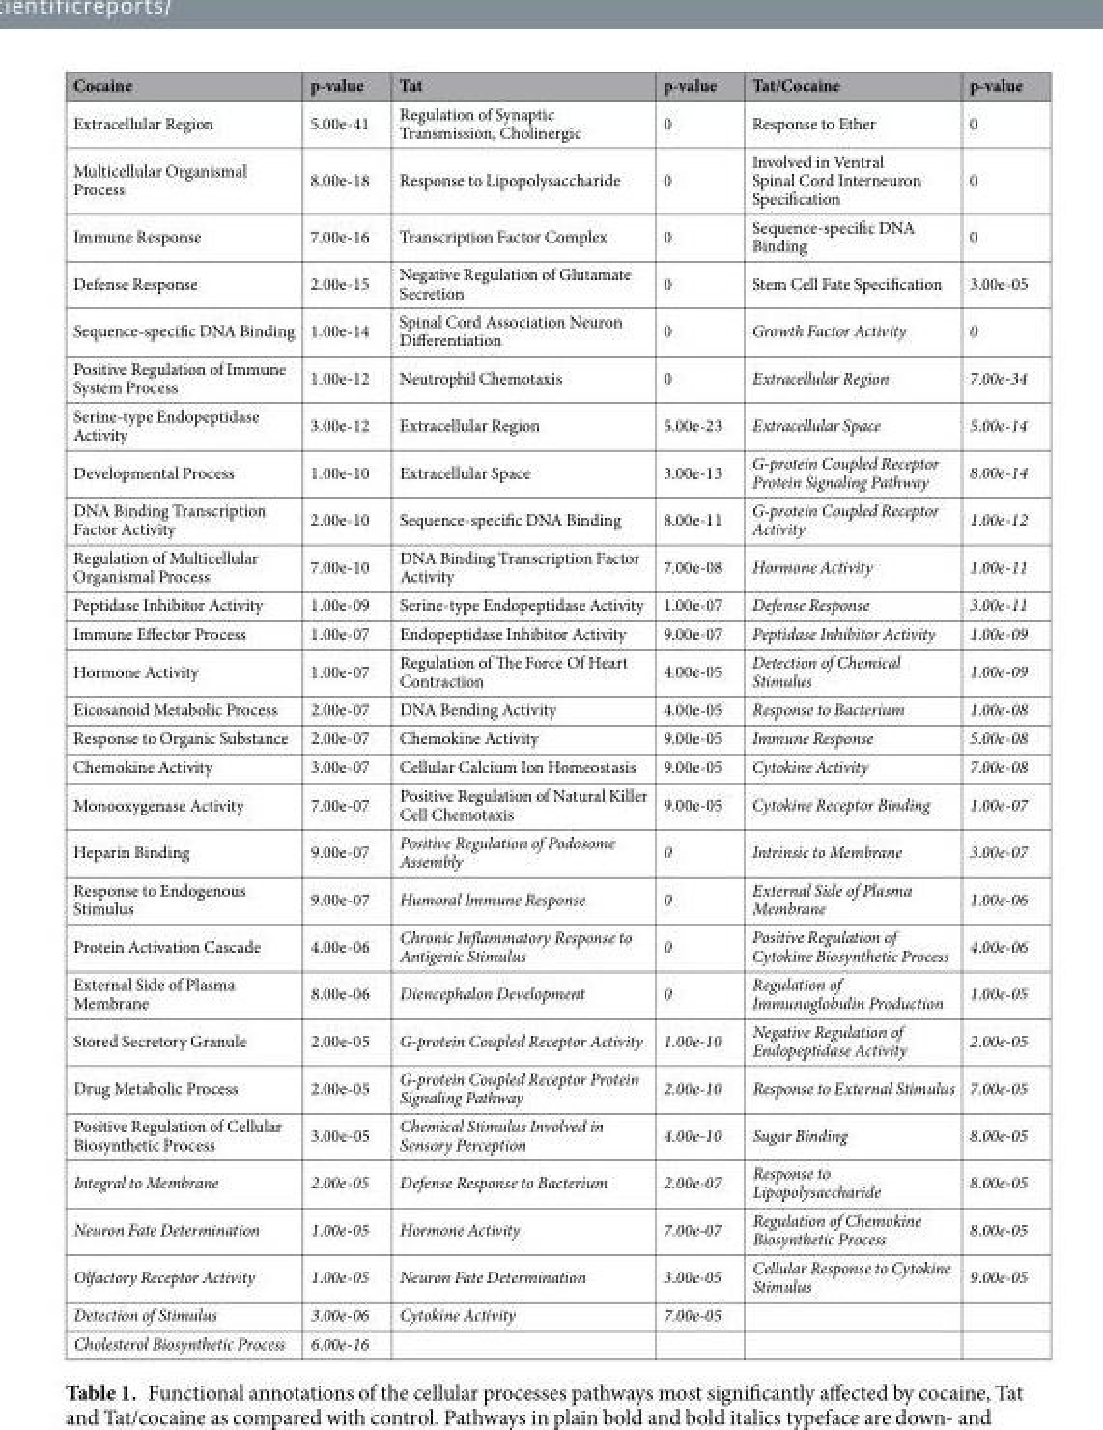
<table><thead><tr><td>Cocaine</td><td>p-value</td><td>Tat</td><td>p-value</td><td>Tat/Cocaine</td><td>p-value</td></tr></thead><tbody><tr><td>Extracellular Region</td><td>5.00e-41</td><td>Regulation of Synaptic Transmission, Cholinergic</td><td>0</td><td>Response to Ether</td><td>0</td></tr><tr><td>Multicellular Organismal Process</td><td>8.00e-18</td><td>Response to Lipopolysaccharide</td><td>0</td><td>Involved in Ventral Spinal Cord Interneuron Specification</td><td>0</td></tr><tr><td>Immune Response</td><td>7.00e-16</td><td>Transcription Factor Complex</td><td>0</td><td>Sequence-specific DNA Binding</td><td>0</td></tr><tr><td>Defense Response</td><td>2.00e-15</td><td>Negative Regulation of Glutamate Secretion</td><td>0</td><td>Stem Cell Fate Specification</td><td>3.00e-05</td></tr><tr><td>Sequence-specific DNA Binding</td><td>1.00e-14</td><td>Spinal Cord Association Neuron Differentiation</td><td>0</td><td>Growth Factor Activity</td><td>0</td></tr><tr><td>Positive Regulation of Immune System Process</td><td>1.00e-12</td><td>Neutrophil Chemotaxis</td><td>0</td><td>Extracellular Region</td><td>7.00e-34</td></tr><tr><td>Serine-type Endopeptidase Activity</td><td>3.00e-12</td><td>Extracellular Region</td><td>5.00e-23</td><td>Extracellular Space</td><td>5.00e-14</td></tr><tr><td>Developmental Process</td><td>1.00e-10</td><td>Extracellular Space</td><td>3.00e-13</td><td>G-protein Coupled Receptor Protein Signaling Pathway</td><td>8.00e-14</td></tr><tr><td>DNA Binding Transcription Factor Activity</td><td>2.00e-10</td><td>Sequence-specific DNA Binding</td><td>8.00e-11</td><td>G-protein Coupled Receptor Activity</td><td>1.00e-12</td></tr><tr><td>Regulation of Multicellular Organismal Process</td><td>7.00e-10</td><td>DNA Binding Transcription Factor Activity</td><td>7.00e-08</td><td>Hormone Activity</td><td>1.00e-11</td></tr><tr><td>Peptidase Inhibitor Activity</td><td>1.00e-09</td><td>Serine-type Endopeptidase Activity</td><td>1.00e-07</td><td>Defense Response</td><td>3.00e-11</td></tr><tr><td>Immune Effector Process</td><td>1.00e-07</td><td>Endopeptidase Inhibitor Activity</td><td>9.00e-07</td><td>Peptidase Inhibitor Activity</td><td>1.00e-09</td></tr><tr><td>Hormone Activity</td><td>1.00e-07</td><td>Regulation of The Force Of Heart Contraction</td><td>4.00e-05</td><td>Detection of Chemical Stimulus</td><td>1.00e-09</td></tr><tr><td>Eicosanoid Metabolic Process</td><td>2.00e-07</td><td>DNA Bending Activity</td><td>4.00e-05</td><td>Response to Bacterium</td><td>1.00e-08</td></tr><tr><td>Response to Organic Substance</td><td>2.00e-07</td><td>Chemokine Activity</td><td>9.00e-05</td><td>Immune Response</td><td>5.00e-08</td></tr><tr><td>Chemokine Activity</td><td>3.00e-07</td><td>Cellular Calcium Ion Homeostasis</td><td>9.00e-05</td><td>Cytokine Activity</td><td>7.00e-08</td></tr><tr><td>Monooxygenase Activity</td><td>7.00e-07</td><td>Positive Regulation of Natural Killer Cell Chemotaxis</td><td>9.00e-05</td><td>Cytokine Receptor Binding</td><td>1.00e-07</td></tr><tr><td>Heparin Binding</td><td>9.00e-07</td><td>Positive Regulation of Podosome Assembly</td><td>0</td><td>Intrinsic to Membrane</td><td>3.00e-07</td></tr><tr><td>Response to Endogenous Stimulus</td><td>9.00e-07</td><td>Humoral Immune Response</td><td>0</td><td>External Side of Plasma Membrane</td><td>1.00e-06</td></tr><tr><td>Protein Activation Cascade</td><td>4.00e-06</td><td>Chronic Inflammatory Response to Antigenic Stimulus</td><td>0</td><td>Positive Regulation of Cytokine Biosynthetic Process</td><td>4.00e-06</td></tr><tr><td>External Side of Plasma Membrane</td><td>8.00e-06</td><td>Diencephalon Development</td><td>0</td><td>Regulation of Immunoglobulin Production</td><td>1.00e-05</td></tr><tr><td>Stored Secretory Granule</td><td>2.00e-05</td><td>G-protein Coupled Receptor Activity</td><td>1.00e-10</td><td>Negative Regulation of Endopeptidase Activity</td><td>2.00e-05</td></tr><tr><td>Drug Metabolic Process</td><td>2.00e-05</td><td>G-protein Coupled Receptor Protein Signaling Pathway</td><td>2.00e-10</td><td>Response to External Stimulus</td><td>7.00e-05</td></tr><tr><td>Positive Regulation of Cellular Biosynthetic Process</td><td>3.00e-05</td><td>Chemical Stimulus Involved in Sensory Perception</td><td>4.00e-10</td><td>Sugar Binding</td><td>8.00e-05</td></tr><tr><td>Integral to Membrane</td><td>2.00e-05</td><td>Defense Response to Bacterium</td><td>2.00e-07</td><td>Response to Lipopolysaccharide</td><td>8.00e-05</td></tr><tr><td>Neuron Fate Determination</td><td>1.00e-05</td><td>Hormone Activity</td><td>7.00e-07</td><td>Regulation of Chemokine Biosynthetic Process</td><td>8.00e-05</td></tr><tr><td>Olfactory Receptor Activity</td><td>1.00e-05</td><td>Neuron Fate Determination</td><td>3.00e-05</td><td>Cellular Response to Cytokine Stimulus</td><td>9.00e-05</td></tr><tr><td>Detection of Stimulus</td><td>3.00e-06</td><td>Cytokine Activity</td><td>7.00e-05</td><td></td><td></td></tr><tr><td>Cholesterol Biosynthetic Process</td><td>6.00e-16</td><td></td><td></td><td></td><td></td></tr></tbody></table>